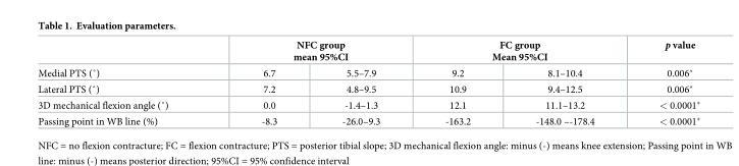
<table><thead><tr><td rowspan="2">Medial PTS (˚)</td><td colspan="2">NFC group mean 95%CI</td><td colspan="2">FC group Mean 95%CI</td><td rowspan="2">p value 0.006*</td></tr><tr><td>6.7</td><td>5.5–7.9</td><td>9.2</td><td>8.1–10.4</td></tr></thead><tbody><tr><td>Lateral PTS (˚)</td><td>7.2</td><td>4.8–9.5</td><td>10.9</td><td>9.4–12.5</td><td>0.006*</td></tr><tr><td>3D mechanical flexion angle (˚)</td><td>0.0</td><td>-1.4–1.3</td><td>12.1</td><td>11.1–13.2</td><td>&lt; 0.0001*</td></tr><tr><td>Passing point in WB line (%)</td><td>-8.3</td><td>-26.0–9.3</td><td>-163.2</td><td>-148.0 –-178.4</td><td>&lt; 0.0001*</td></tr></tbody></table>